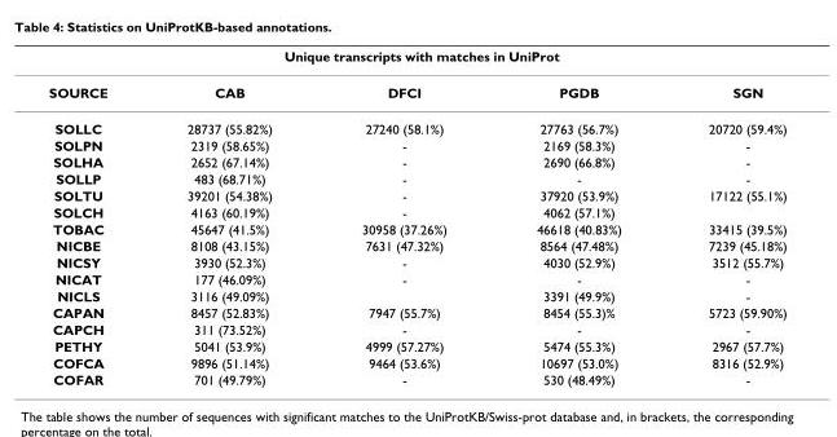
<table><thead><tr><td colspan="5">Unique transcripts with matches in UniProt</td></tr><tr><td>SOURCE</td><td>CAB</td><td>DFCI</td><td>PGDB</td><td>SGN</td></tr></thead><tbody><tr><td>SOLLC</td><td>28737 (55.82%)</td><td>27240 (58.1%)</td><td>27763 (56.7%)</td><td>20720 (59.4%)</td></tr><tr><td>SOLPN</td><td>2319 (58.65%)</td><td>-</td><td>2169 (58.3%)</td><td>-</td></tr><tr><td>SOLHA</td><td>2652 (67.14%)</td><td>-</td><td>2690 (66.8%)</td><td>-</td></tr><tr><td>SOLLP</td><td>483 (68.71%)</td><td>-</td><td>-</td><td>-</td></tr><tr><td>SOLTU</td><td>39201 (54.38%)</td><td>-</td><td>37920 (53.9%)</td><td>17122 (55.1%)</td></tr><tr><td>SOLCH</td><td>4163 (60.19%)</td><td>-</td><td>4062 (57.1%)</td><td></td></tr><tr><td>TOBAC</td><td>45647 (41.5%)</td><td>30958 (37.26%)</td><td>46618 (40.83%)</td><td>33415 (39.5%)</td></tr><tr><td>NICBE</td><td>8108 (43.15%)</td><td>7631 (47.32%)</td><td>8564 (47.48%)</td><td>7239 (45.18%)</td></tr><tr><td>NICSY</td><td>3930 (52.3%)</td><td>-</td><td>4030 (52.9%)</td><td>3512 (55.7%)</td></tr><tr><td>NICAT</td><td>177 (46.09%)</td><td>-</td><td>-</td><td>-</td></tr><tr><td>NICLS</td><td>3116 (49.09%)</td><td></td><td>3391 (49.9%)</td><td>-</td></tr><tr><td>CAPAN</td><td>8457 (52.83%)</td><td>7947 (55.7%)</td><td>8454 (55.3)%</td><td>5723 (59.90%)</td></tr><tr><td>CAPCH</td><td>311 (73.52%)</td><td>-</td><td>-</td><td>-</td></tr><tr><td>PETHY</td><td>5041 (53.9%)</td><td>4999 (57.27%)</td><td>5474 (55.3%)</td><td>2967 (57.7%)</td></tr><tr><td>COFCA</td><td>9896 (51.14%)</td><td>9464 (53.6%)</td><td>10697 (53.0%)</td><td>8316 (52.9%)</td></tr><tr><td>COFAR</td><td>701 (49.79%)</td><td>-</td><td>530 (48.49%)</td><td>-</td></tr></tbody></table>